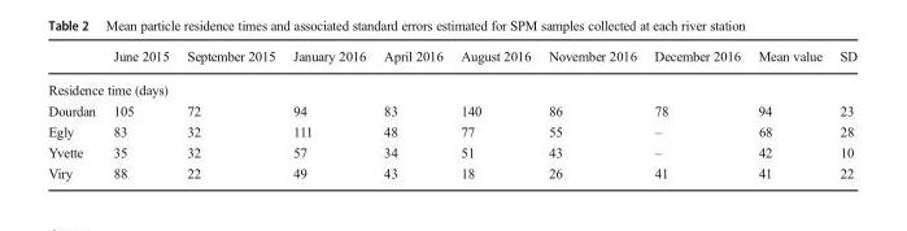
<table><thead><tr><td></td><td>June 2015</td><td>September 2015</td><td>January 2016</td><td>April 2016</td><td>August 2016</td><td>November 2016</td><td>December 2016</td><td>Mean value</td><td>SD</td></tr></thead><tbody><tr><td colspan="10">Residence time (days)</td></tr><tr><td>Dourdan</td><td>105</td><td>72</td><td>94</td><td>83</td><td>140</td><td>86</td><td>78</td><td>94</td><td>23</td></tr><tr><td>Egly</td><td>83</td><td>32</td><td>111</td><td>48</td><td>77</td><td>55</td><td>–</td><td>68</td><td>28</td></tr><tr><td>Yvette</td><td>35</td><td>32</td><td>57</td><td>34</td><td>51</td><td>43</td><td>–</td><td>42</td><td>10</td></tr><tr><td>Viry</td><td>88</td><td>22</td><td>49</td><td>43</td><td>18</td><td>26</td><td>41</td><td>41</td><td>22</td></tr></tbody></table>